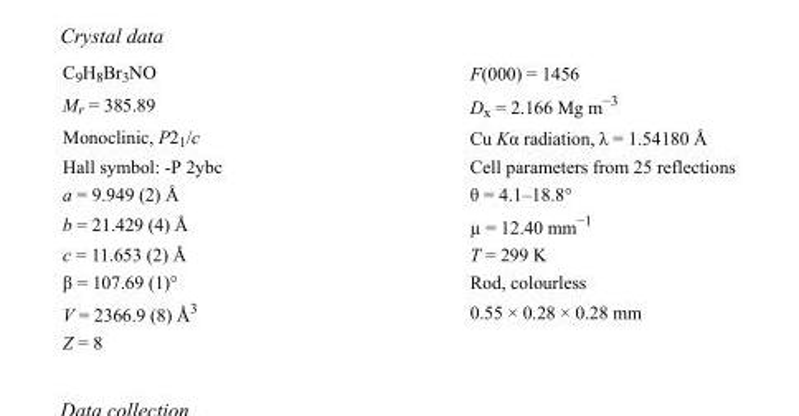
<table><tbody><tr><td>C<sub>9</sub>H<sub>8</sub>Br<sub>3</sub>NO</td><td>F(000) = 1456</td></tr><tr><td>M<sub>r</sub> = 385.89</td><td>D<sub>x</sub> = 2.166 Mg m<sup>−3</sup></td></tr><tr><td>Monoclinic, P2<sub>1</sub>/c</td><td>Cu Kα radiation, λ = 1.54180 Å</td></tr><tr><td>Hall symbol: -P 2ybc</td><td>Cell parameters from 25 reflections</td></tr><tr><td>a = 9.949 (2) Å</td><td>θ = 4.1–18.8°</td></tr><tr><td>b = 21.429 (4) Å</td><td>µ = 12.40 mm<sup>−1</sup></td></tr><tr><td>c = 11.653 (2) Å</td><td>T = 299 K</td></tr><tr><td>β = 107.69 (1)°</td><td>Rod, colourless</td></tr><tr><td>V = 2366.9 (8) Å<sup>3</sup></td><td>0.55 × 0.28 × 0.28 mm</td></tr><tr><td>Z = 8</td><td></td></tr></tbody></table>